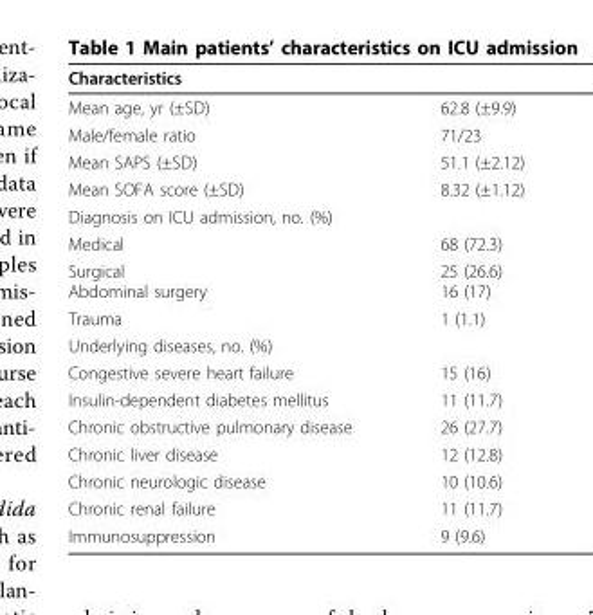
<table><thead><tr><td>Characteristics</td><td></td></tr></thead><tbody><tr><td>Mean age, yr (±SD)</td><td>62.8 (±9.9)</td></tr><tr><td>Male/female ratio</td><td>71/23</td></tr><tr><td>Mean SAPS (±SD)</td><td>51.1 (±2.12)</td></tr><tr><td>Mean SOFA score (±SD)</td><td>8.32 (±1.12)</td></tr><tr><td colspan="2">Diagnosis on ICU admission, no. (%)</td></tr><tr><td>Medical</td><td>68 (72.3)</td></tr><tr><td>Surgical Abdominal surgery</td><td>25 (26.6) 16 (17)</td></tr><tr><td>Trauma</td><td>1 (1.1)</td></tr><tr><td colspan="2">Underlying diseases, no. (%)</td></tr><tr><td>Congestive severe heart failure</td><td>15 (16)</td></tr><tr><td>Insulin-dependent diabetes mellitus</td><td>11 (11.7)</td></tr><tr><td>Chronic obstructive pulmonary disease</td><td>26 (27.7)</td></tr><tr><td>Chronic liver disease</td><td>12 (12.8)</td></tr><tr><td>Chronic neurologic disease</td><td>10 (10.6)</td></tr><tr><td>Chronic renal failure</td><td>11 (11.7)</td></tr><tr><td>Immunosuppression</td><td>9 (9.6)</td></tr></tbody></table>